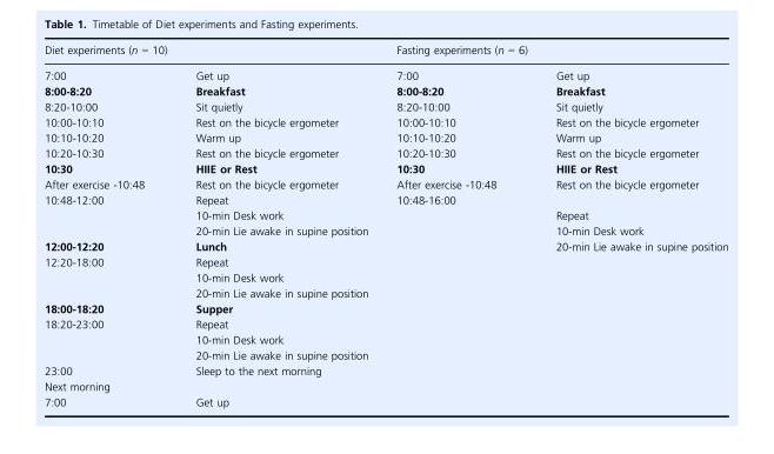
<table><thead><tr><td>Diet experiments (n = 10)</td><td></td><td>Fasting experiments (n = 6)</td><td></td></tr></thead><tbody><tr><td>7:00</td><td>Get up</td><td>7:00</td><td>Get up</td></tr><tr><td>8:00-8:20</td><td>Breakfast</td><td>8:00-8:20</td><td>Breakfast</td></tr><tr><td>8:20-10:00</td><td>Sit quietly</td><td>8:20-10:00</td><td>Sit quietly</td></tr><tr><td>10:00-10:10</td><td>Rest on the bicycle ergometer</td><td>10:00-10:10</td><td>Rest on the bicycle ergometer</td></tr><tr><td>10:10-10:20</td><td>Warm up</td><td>10:10-10:20</td><td>Warm up</td></tr><tr><td>10:20-10:30</td><td>Rest on the bicycle ergometer</td><td>10:20-10:30</td><td>Rest on the bicycle ergometer</td></tr><tr><td>10:30</td><td>HIIE or Rest</td><td>10:30</td><td>HIIE or Rest</td></tr><tr><td>After exercise -10:48</td><td>Rest on the bicycle ergometer</td><td>After exercise -10:48</td><td>Rest on the bicycle ergometer</td></tr><tr><td rowspan="3">10:48-12:00</td><td>Repeat</td><td>10:48-16:00</td><td></td></tr><tr><td>10-min Desk work</td><td></td><td>Repeat</td></tr><tr><td>20-min Lie awake in supine position</td><td></td><td>10-min Desk work</td></tr><tr><td>12:00-12:20</td><td>Lunch</td><td></td><td>20-min Lie awake in supine position</td></tr><tr><td rowspan="3">12:20-18:00</td><td>Repeat</td><td></td><td></td></tr><tr><td>10-min Desk work</td><td></td><td></td></tr><tr><td>20-min Lie awake in supine position</td><td></td><td></td></tr><tr><td>18:00-18:20</td><td>Supper</td><td></td><td></td></tr><tr><td rowspan="3">18:20-23:00</td><td>Repeat</td><td></td><td></td></tr><tr><td>10-min Desk work</td><td></td><td></td></tr><tr><td>20-min Lie awake in supine position</td><td></td><td></td></tr><tr><td>23:00</td><td>Sleep to the next morning</td><td></td><td></td></tr><tr><td colspan="4">Next morning</td></tr><tr><td>7:00</td><td>Get up</td><td></td><td></td></tr></tbody></table>